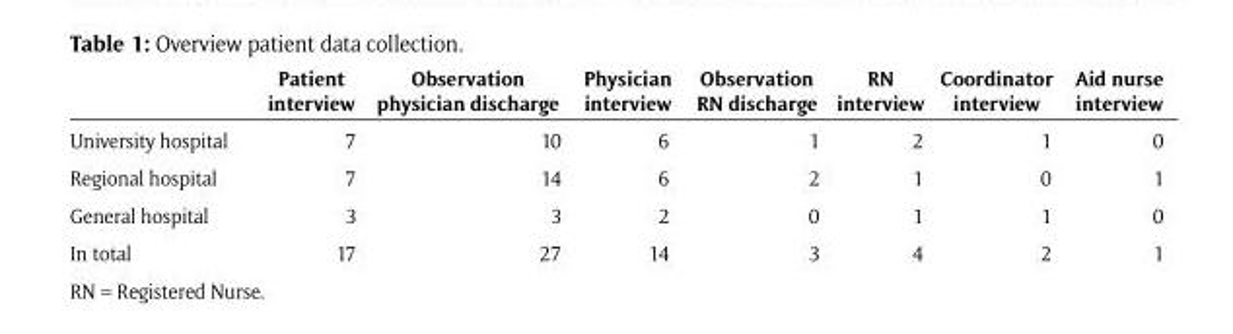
<table><thead><tr><td></td><td>Patient interview</td><td>Observation physician discharge</td><td>Physician interview</td><td>Observation RN discharge</td><td>RN interview</td><td>Coordinator interview</td><td>Aid nurse interview</td></tr></thead><tbody><tr><td>University hospital</td><td>7</td><td>10</td><td>6</td><td>1</td><td>2</td><td>1</td><td>0</td></tr><tr><td>Regional hospital</td><td>7</td><td>14</td><td>6</td><td>2</td><td>1</td><td>0</td><td>1</td></tr><tr><td>General hospital</td><td>3</td><td>3</td><td>2</td><td>0</td><td>1</td><td>1</td><td>0</td></tr><tr><td>In total</td><td>17</td><td>27</td><td>14</td><td>3</td><td>4</td><td>2</td><td>1</td></tr></tbody></table>